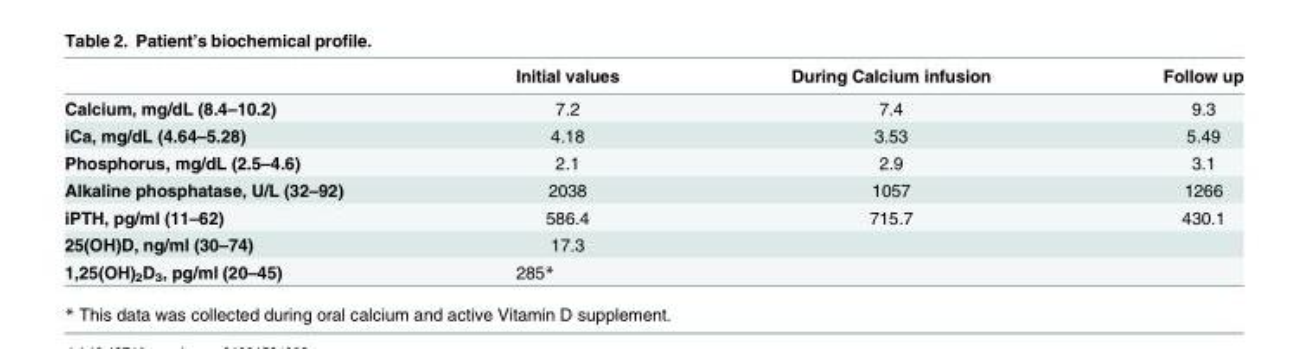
<table><thead><tr><td></td><td>Initial values</td><td>During Calcium infusion</td><td>Follow up</td></tr></thead><tbody><tr><td>Calcium, mg/dL (8.4–10.2)</td><td>7.2</td><td>7.4</td><td>9.3</td></tr><tr><td>iCa, mg/dL (4.64–5.28)</td><td>4.18</td><td>3.53</td><td>5.49</td></tr><tr><td>Phosphorus, mg/dL (2.5–4.6)</td><td>2.1</td><td>2.9</td><td>3.1</td></tr><tr><td>Alkaline phosphatase, U/L (32–92)</td><td>2038</td><td>1057</td><td>1266</td></tr><tr><td>iPTH, pg/ml (11–62)</td><td>586.4</td><td>715.7</td><td>430.1</td></tr><tr><td>25(OH)D, ng/ml (30–74)</td><td>17.3</td><td></td><td></td></tr><tr><td>1,25(OH)<sub>2</sub>D<sub>3</sub>, pg/ml (20–45)</td><td>285*</td><td></td><td></td></tr></tbody></table>